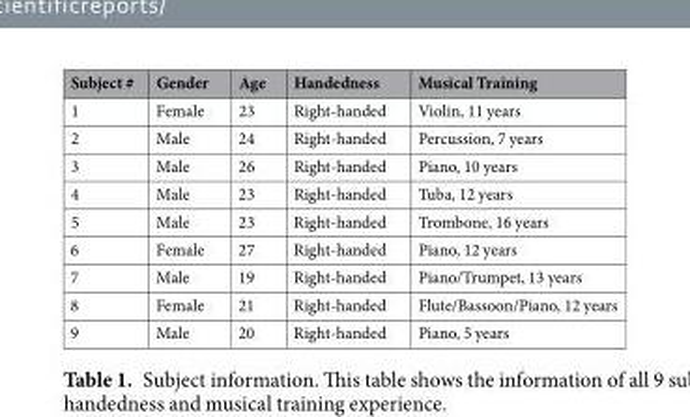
<table><thead><tr><td>Subject #</td><td>Gender</td><td>Age</td><td>Handedness</td><td>Musical Training</td></tr></thead><tbody><tr><td>1</td><td>Female</td><td>23</td><td>Right-handed</td><td>Violin, 11 years</td></tr><tr><td>2</td><td>Male</td><td>24</td><td>Right-handed</td><td>Percussion, 7 years</td></tr><tr><td>3</td><td>Male</td><td>26</td><td>Right-handed</td><td>Piano, 10 years</td></tr><tr><td>4</td><td>Male</td><td>23</td><td>Right-handed</td><td>Tuba, 12 years</td></tr><tr><td>5</td><td>Male</td><td>23</td><td>Right-handed</td><td>Trombone, 16 years</td></tr><tr><td>6</td><td>Female</td><td>27</td><td>Right-handed</td><td>Piano, 12 years</td></tr><tr><td>7</td><td>Male</td><td>19</td><td>Right-handed</td><td>Piano/Trumpet, 13 years</td></tr><tr><td>8</td><td>Female</td><td>21</td><td>Right-handed</td><td>Flute/Bassoon/Piano, 12 years</td></tr><tr><td>9</td><td>Male</td><td>20</td><td>Right-handed</td><td>Piano, 5 years</td></tr></tbody></table>